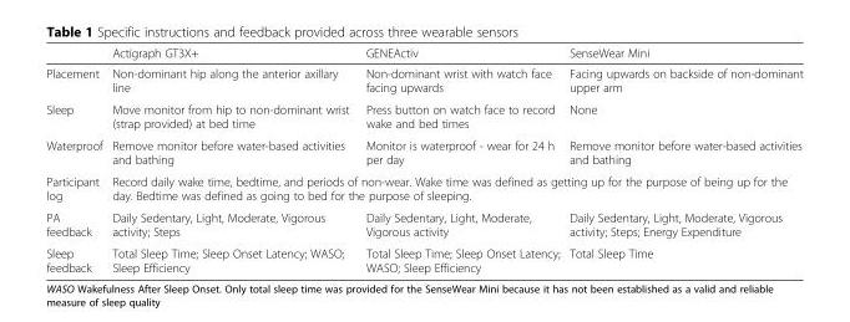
<table><thead><tr><td></td><td>Actigraph GT3X+</td><td>GENEActiv</td><td>SenseWear Mini</td></tr></thead><tbody><tr><td>Placement</td><td>Non-dominant hip along the anterior axillary line</td><td>Non-dominant wrist with watch face facing upwards</td><td>Facing upwards on backside of non-dominant upper arm</td></tr><tr><td>Sleep</td><td>Move monitor from hip to non-dominant wrist (strap provided) at bed time</td><td>Press button on watch face to record wake and bed times</td><td>None</td></tr><tr><td>Waterproof</td><td>Remove monitor before water-based activities and bathing</td><td>Monitor is waterproof - wear for 24 h per day</td><td>Remove monitor before water-based activities and bathing</td></tr><tr><td>Participant log</td><td colspan="3">Record daily wake time, bedtime, and periods of non-wear. Wake time was defined as getting up for the purpose of being up for the day. Bedtime was defined as going to bed for the purpose of sleeping.</td></tr><tr><td>PA feedback</td><td>Daily Sedentary, Light, Moderate, Vigorous activity; Steps</td><td>Daily Sedentary, Light, Moderate, Vigorous activity</td><td>Daily Sedentary, Light, Moderate, Vigorous activity; Steps; Energy Expenditure</td></tr><tr><td>Sleep feedback</td><td>Total Sleep Time; Sleep Onset Latency; WASO; Sleep Efficiency</td><td>Total Sleep Time; Sleep Onset Latency; WASO; Sleep Efficiency</td><td>Total Sleep Time</td></tr></tbody></table>